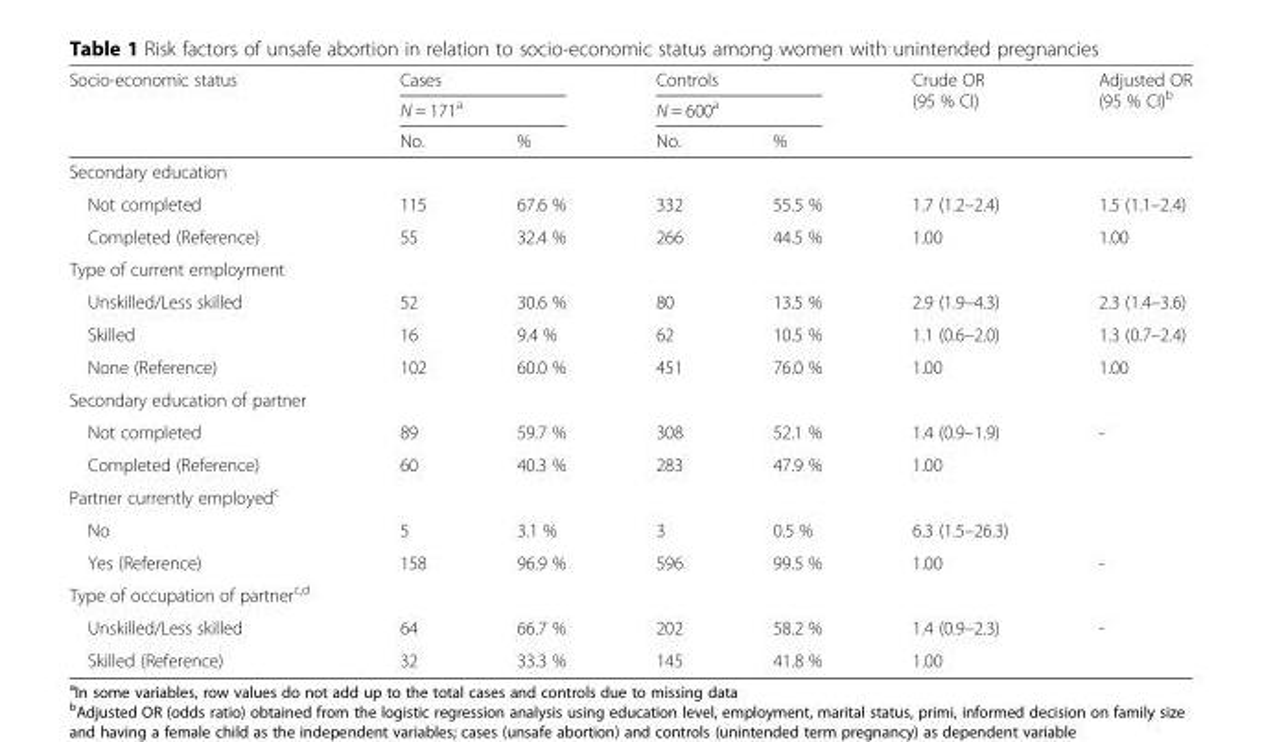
<table><thead><tr><td rowspan="3">Socio-economic status</td><td rowspan="2" colspan="2">Cases N = 171<sup>a</sup></td><td rowspan="2" colspan="2">Controls N = 600<sup>a</sup></td><td rowspan="3">Crude OR (95 % CI)</td><td rowspan="3">Adjusted OR (95 % CI)<sup>b</sup></td></tr><tr></tr><tr><td>No.</td><td>%</td><td>No.</td><td>%</td></tr></thead><tbody><tr><td colspan="7">Secondary education</td></tr><tr><td>Not completed</td><td>115</td><td>67.6 %</td><td>332</td><td>55.5 %</td><td>1.7 (1.2–2.4)</td><td>1.5 (1.1–2.4)</td></tr><tr><td>Completed (Reference)</td><td>55</td><td>32.4 %</td><td>266</td><td>44.5 %</td><td>1.00</td><td>1.00</td></tr><tr><td colspan="7">Type of current employment</td></tr><tr><td>Unskilled/Less skilled</td><td>52</td><td>30.6 %</td><td>80</td><td>13.5 %</td><td>2.9 (1.9–4.3)</td><td>2.3 (1.4–3.6)</td></tr><tr><td>Skilled</td><td>16</td><td>9.4 %</td><td>62</td><td>10.5 %</td><td>1.1 (0.6–2.0)</td><td>1.3 (0.7–2.4)</td></tr><tr><td>None (Reference)</td><td>102</td><td>60.0 %</td><td>451</td><td>76.0 %</td><td>1.00</td><td>1.00</td></tr><tr><td colspan="7">Secondary education of partner</td></tr><tr><td>Not completed</td><td>89</td><td>59.7 %</td><td>308</td><td>52.1 %</td><td>1.4 (0.9–1.9)</td><td>-</td></tr><tr><td>Completed (Reference)</td><td>60</td><td>40.3 %</td><td>283</td><td>47.9 %</td><td>1.00</td><td></td></tr><tr><td colspan="7">Partner currently employed<sup>c</sup></td></tr><tr><td>No</td><td>5</td><td>3.1 %</td><td>3</td><td>0.5 %</td><td>6.3 (1.5–26.3)</td><td></td></tr><tr><td>Yes (Reference)</td><td>158</td><td>96.9 %</td><td>596</td><td>99.5 %</td><td>1.00</td><td>-</td></tr><tr><td colspan="7">Type of occupation of partner<sup>c,d</sup></td></tr><tr><td>Unskilled/Less skilled</td><td>64</td><td>66.7 %</td><td>202</td><td>58.2 %</td><td>1.4 (0.9–2.3)</td><td>-</td></tr><tr><td>Skilled (Reference)</td><td>32</td><td>33.3 %</td><td>145</td><td>41.8 %</td><td>1.00</td><td></td></tr></tbody></table>